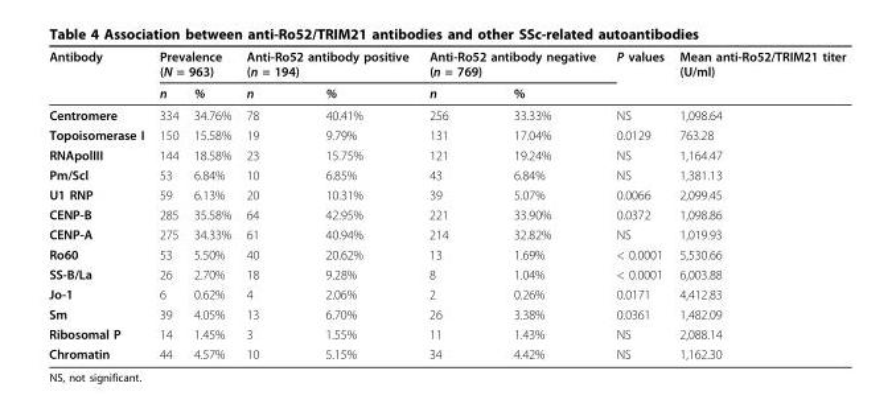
<table><thead><tr><td rowspan="2">Antibody</td><td colspan="2">Prevalence (N = 963)</td><td colspan="2">Anti-Ro52 antibody positive (n = 194)</td><td colspan="2">Anti-Ro52 antibody negative (n = 769)</td><td rowspan="2">P values</td><td rowspan="2">Mean anti-Ro52/TRIM21 titer (U/ml)</td></tr><tr><td>n</td><td>%</td><td>n</td><td>%</td><td>n</td><td>%</td></tr></thead><tbody><tr><td>Centromere</td><td>334</td><td>34.76%</td><td>78</td><td>40.41%</td><td>256</td><td>33.33%</td><td>NS</td><td>1,098.64</td></tr><tr><td>Topoisomerase I</td><td>150</td><td>15.58%</td><td>19</td><td>9.79%</td><td>131</td><td>17.04%</td><td>0.0129</td><td>763.28</td></tr><tr><td>RNApolIII</td><td>144</td><td>18.58%</td><td>23</td><td>15.75%</td><td>121</td><td>19.24%</td><td>NS</td><td>1,164.47</td></tr><tr><td>Pm/Scl</td><td>53</td><td>6.84%</td><td>10</td><td>6.85%</td><td>43</td><td>6.84%</td><td>NS</td><td>1,381.13</td></tr><tr><td>U1 RNP</td><td>59</td><td>6.13%</td><td>20</td><td>10.31%</td><td>39</td><td>5.07%</td><td>0.0066</td><td>2,099.45</td></tr><tr><td>CENP-B</td><td>285</td><td>35.58%</td><td>64</td><td>42.95%</td><td>221</td><td>33.90%</td><td>0.0372</td><td>1,098.86</td></tr><tr><td>CENP-A</td><td>275</td><td>34.33%</td><td>61</td><td>40.94%</td><td>214</td><td>32.82%</td><td>NS</td><td>1,019.93</td></tr><tr><td>Ro60</td><td>53</td><td>5.50%</td><td>40</td><td>20.62%</td><td>13</td><td>1.69%</td><td>&lt; 0.0001</td><td>5,530.66</td></tr><tr><td>SS-B/La</td><td>26</td><td>2.70%</td><td>18</td><td>9.28%</td><td>8</td><td>1.04%</td><td>&lt; 0.0001</td><td>6,003.88</td></tr><tr><td>Jo-1</td><td>6</td><td>0.62%</td><td>4</td><td>2.06%</td><td>2</td><td>0.26%</td><td>0.0171</td><td>4,412.83</td></tr><tr><td>Sm</td><td>39</td><td>4.05%</td><td>13</td><td>6.70%</td><td>26</td><td>3.38%</td><td>0.0361</td><td>1,482.09</td></tr><tr><td>Ribosomal P</td><td>14</td><td>1.45%</td><td>3</td><td>1.55%</td><td>11</td><td>1.43%</td><td>NS</td><td>2,088.14</td></tr><tr><td>Chromatin</td><td>44</td><td>4.57%</td><td>10</td><td>5.15%</td><td>34</td><td>4.42%</td><td>NS</td><td>1,162.30</td></tr></tbody></table>